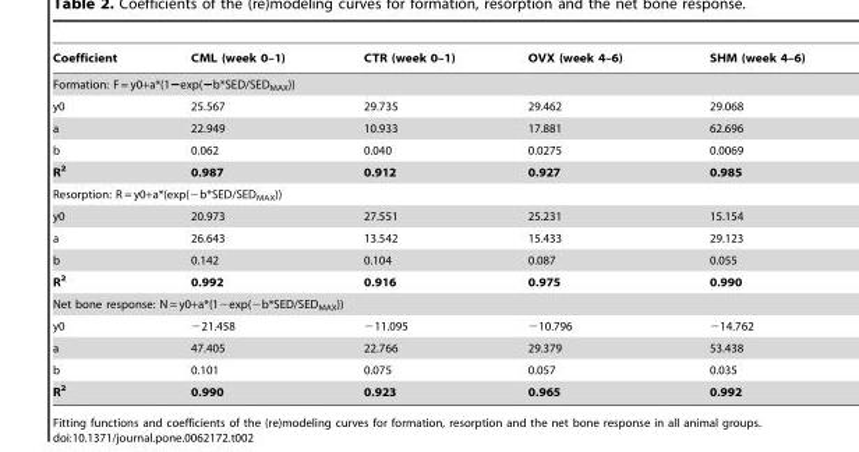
<table><thead><tr><td>Coefficient</td><td>CML (week 0–1)</td><td>CTR (week 0–1)</td><td>OVX (week 4–6)</td><td>SHM (week 4–6)</td></tr></thead><tbody><tr><td colspan="5">Formation: F = y0+a*(1−exp(−b*SED/SED<sub>MAX</sub>))</td></tr><tr><td>y0</td><td>25.567</td><td>29.735</td><td>29.462</td><td>29.068</td></tr><tr><td>a</td><td>22.949</td><td>10.933</td><td>17.881</td><td>62.696</td></tr><tr><td>b</td><td>0.062</td><td>0.040</td><td>0.0275</td><td>0.0069</td></tr><tr><td>R<sup>2</sup></td><td>0.987</td><td>0.912</td><td>0.927</td><td>0.985</td></tr><tr><td colspan="5">Resorption: R = y0+a*(exp(−b*SED/SED<sub>MAX</sub>))</td></tr><tr><td>y0</td><td>20.973</td><td>27.551</td><td>25.231</td><td>15.154</td></tr><tr><td>a</td><td>26.643</td><td>13.542</td><td>15.433</td><td>29.123</td></tr><tr><td>b</td><td>0.142</td><td>0.104</td><td>0.087</td><td>0.055</td></tr><tr><td>R<sup>2</sup></td><td>0.992</td><td>0.916</td><td>0.975</td><td>0.990</td></tr><tr><td colspan="5">Net bone response: N = y0+a*(1−exp(−b*SED/SED<sub>MAX</sub>))</td></tr><tr><td>y0</td><td>−21.458</td><td>−11.095</td><td>−10.796</td><td>−14.762</td></tr><tr><td>a</td><td>47.405</td><td>22.766</td><td>29.379</td><td>53.438</td></tr><tr><td>b</td><td>0.101</td><td>0.075</td><td>0.057</td><td>0.035</td></tr><tr><td>R<sup>2</sup></td><td>0.990</td><td>0.923</td><td>0.965</td><td>0.992</td></tr></tbody></table>